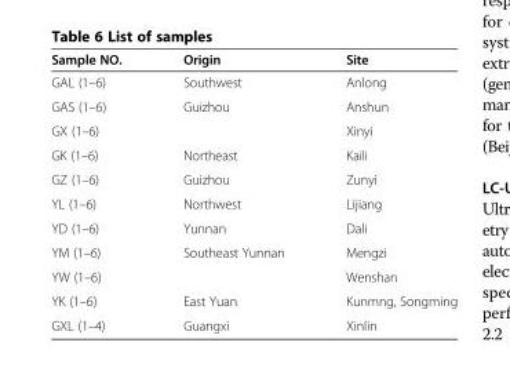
<table><thead><tr><td>Sample NO.</td><td>Origin</td><td>Site</td></tr></thead><tbody><tr><td>GAL (1–6)</td><td>Southwest</td><td>Anlong</td></tr><tr><td>GAS (1–6)</td><td rowspan="2">Guizhou</td><td>Anshun</td></tr><tr><td>GX (1–6)</td><td>Xinyi</td></tr><tr><td>GK (1–6)</td><td>Northeast</td><td>Kaili</td></tr><tr><td>GZ (1–6)</td><td>Guizhou</td><td>Zunyi</td></tr><tr><td>YL (1–6)</td><td>Northwest</td><td>Lijiang</td></tr><tr><td>YD (1–6)</td><td>Yunnan</td><td>Dali</td></tr><tr><td>YM (1–6)</td><td rowspan="2">Southeast Yunnan</td><td>Mengzi</td></tr><tr><td>YW (1–6)</td><td>Wenshan</td></tr><tr><td>YK (1–6)</td><td>East Yuan</td><td>Kunmng, Songming</td></tr><tr><td>GXL (1–4)</td><td>Guangxi</td><td>Xinlin</td></tr></tbody></table>